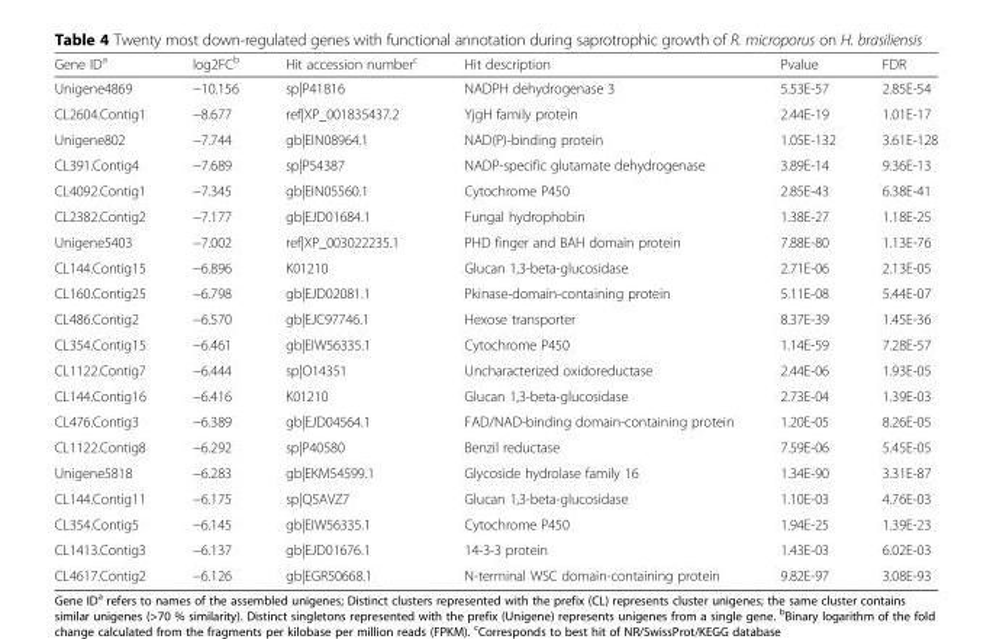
<table><thead><tr><td>Gene ID<sup>a</sup></td><td>log2FC<sup>b</sup></td><td>Hit accession number<sup>c</sup></td><td>Hit description</td><td>Pvalue</td><td>FDR</td></tr></thead><tbody><tr><td>Unigene4869</td><td>−10.156</td><td>sp|P41816</td><td>NADPH dehydrogenase 3</td><td>5.53E-57</td><td>2.85E-54</td></tr><tr><td>CL2604.Contig1</td><td>−8.677</td><td>ref|XP_001835437.2</td><td>YjgH family protein</td><td>2.44E-19</td><td>1.01E-17</td></tr><tr><td>Unigene802</td><td>−7.744</td><td>gb|EIN08964.1</td><td>NAD(P)-binding protein</td><td>1.05E-132</td><td>3.61E-128</td></tr><tr><td>CL391.Contig4</td><td>−7.689</td><td>sp|P54387</td><td>NADP-specific glutamate dehydrogenase</td><td>3.89E-14</td><td>9.36E-13</td></tr><tr><td>CL4092.Contig1</td><td>−7.345</td><td>gb|EIN05560.1</td><td>Cytochrome P450</td><td>2.85E-43</td><td>6.38E-41</td></tr><tr><td>CL2382.Contig2</td><td>−7.177</td><td>gb|EJD01684.1</td><td>Fungal hydrophobin</td><td>1.38E-27</td><td>1.18E-25</td></tr><tr><td>Unigene5403</td><td>−7.002</td><td>ref|XP_003022235.1</td><td>PHD finger and BAH domain protein</td><td>7.88E-80</td><td>1.13E-76</td></tr><tr><td>CL144.Contig15</td><td>−6.896</td><td>K01210</td><td>Glucan 1,3-beta-glucosidase</td><td>2.71E-06</td><td>2.13E-05</td></tr><tr><td>CL160.Contig25</td><td>−6.798</td><td>gb|EJD02081.1</td><td>Pkinase-domain-containing protein</td><td>5.11E-08</td><td>5.44E-07</td></tr><tr><td>CL486.Contig2</td><td>−6.570</td><td>gb|EJC97746.1</td><td>Hexose transporter</td><td>8.37E-39</td><td>1.45E-36</td></tr><tr><td>CL354.Contig15</td><td>−6.461</td><td>gb|EIW56335.1</td><td>Cytochrome P450</td><td>1.14E-59</td><td>7.28E-57</td></tr><tr><td>CL1122.Contig7</td><td>−6.444</td><td>sp|O14351</td><td>Uncharacterized oxidoreductase</td><td>2.44E-06</td><td>1.93E-05</td></tr><tr><td>CL144.Contig16</td><td>−6.416</td><td>K01210</td><td>Glucan 1,3-beta-glucosidase</td><td>2.73E-04</td><td>1.39E-03</td></tr><tr><td>CL476.Contig3</td><td>−6.389</td><td>gb|EJD04564.1</td><td>FAD/NAD-binding domain-containing protein</td><td>1.20E-05</td><td>8.26E-05</td></tr><tr><td>CL1122.Contig8</td><td>−6.292</td><td>sp|P40580</td><td>Benzil reductase</td><td>7.59E-06</td><td>5.45E-05</td></tr><tr><td>Unigene5818</td><td>−6.283</td><td>gb|EKM54599.1</td><td>Glycoside hydrolase family 16</td><td>1.34E-90</td><td>3.31E-87</td></tr><tr><td>CL144.Contig11</td><td>−6.175</td><td>sp|Q5AVZ7</td><td>Glucan 1,3-beta-glucosidase</td><td>1.10E-03</td><td>4.76E-03</td></tr><tr><td>CL354.Contig5</td><td>−6.145</td><td>gb|EIW56335.1</td><td>Cytochrome P450</td><td>1.94E-25</td><td>1.39E-23</td></tr><tr><td>CL1413.Contig3</td><td>−6.137</td><td>gb|EJD01676.1</td><td>14-3-3 protein</td><td>1.43E-03</td><td>6.02E-03</td></tr><tr><td>CL4617.Contig2</td><td>−6.126</td><td>gb|EGR50668.1</td><td>N-terminal WSC domain-containing protein</td><td>9.82E-97</td><td>3.08E-93</td></tr></tbody></table>